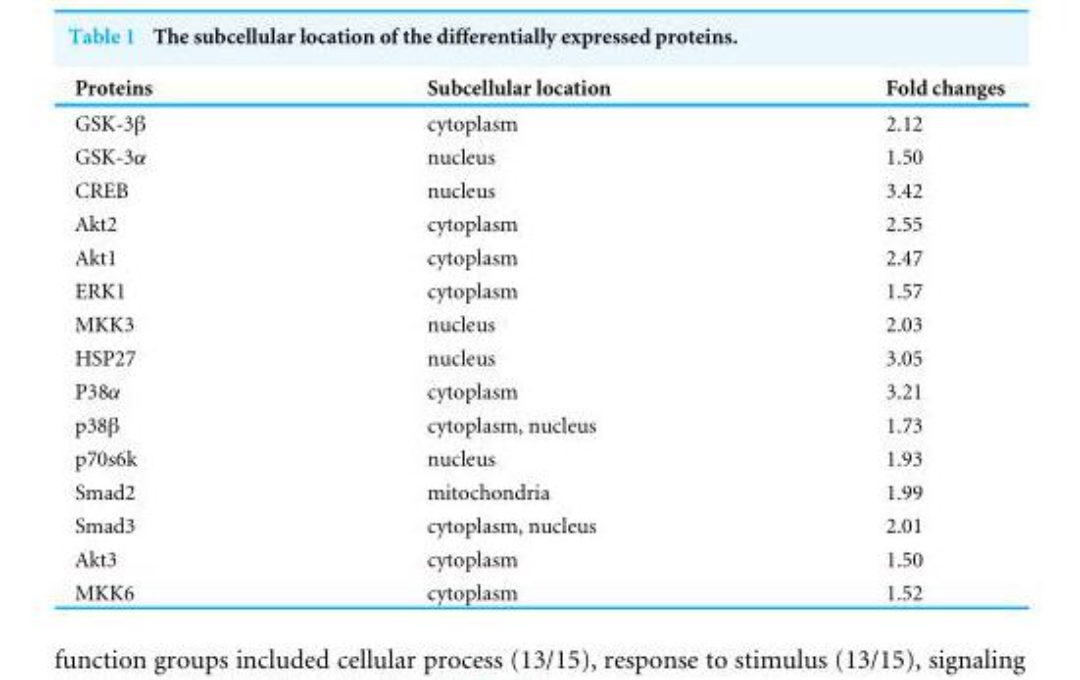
<table><thead><tr><td>Proteins</td><td>Subcellular location</td><td>Fold changes</td></tr></thead><tbody><tr><td>GSK-3β</td><td>cytoplasm</td><td>2.12</td></tr><tr><td>GSK-3α</td><td>nucleus</td><td>1.50</td></tr><tr><td>CREB</td><td>nucleus</td><td>3.42</td></tr><tr><td>Akt2</td><td>cytoplasm</td><td>2.55</td></tr><tr><td>Akt1</td><td>cytoplasm</td><td>2.47</td></tr><tr><td>ERK1</td><td>cytoplasm</td><td>1.57</td></tr><tr><td>MKK3</td><td>nucleus</td><td>2.03</td></tr><tr><td>HSP27</td><td>nucleus</td><td>3.05</td></tr><tr><td>P38α</td><td>cytoplasm</td><td>3.21</td></tr><tr><td>p38β</td><td>cytoplasm, nucleus</td><td>1.73</td></tr><tr><td>p70s6k</td><td>nucleus</td><td>1.93</td></tr><tr><td>Smad2</td><td>mitochondria</td><td>1.99</td></tr><tr><td>Smad3</td><td>cytoplasm, nucleus</td><td>2.01</td></tr><tr><td>Akt3</td><td>cytoplasm</td><td>1.50</td></tr><tr><td>MKK6</td><td>cytoplasm</td><td>1.52</td></tr></tbody></table>